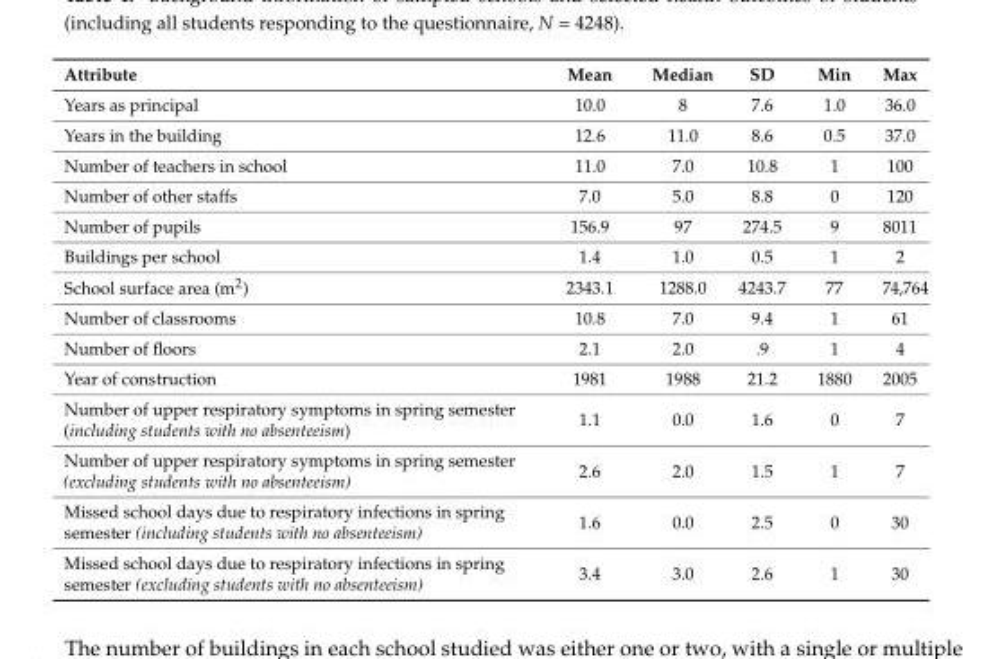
<table><thead><tr><td>Attribute</td><td>Mean</td><td>Median</td><td>SD</td><td>Min</td><td>Max</td></tr></thead><tbody><tr><td>Years as principal</td><td>10.0</td><td>8</td><td>7.6</td><td>1.0</td><td>36.0</td></tr><tr><td>Years in the building</td><td>12.6</td><td>11.0</td><td>8.6</td><td>0.5</td><td>37.0</td></tr><tr><td>Number of teachers in school</td><td>11.0</td><td>7.0</td><td>10.8</td><td>1</td><td>100</td></tr><tr><td>Number of other staffs</td><td>7.0</td><td>5.0</td><td>8.8</td><td>0</td><td>120</td></tr><tr><td>Number of pupils</td><td>156.9</td><td>97</td><td>274.5</td><td>9</td><td>8011</td></tr><tr><td>Buildings per school</td><td>1.4</td><td>1.0</td><td>0.5</td><td>1</td><td>2</td></tr><tr><td>School surface area (m<sup>2</sup>)</td><td>2343.1</td><td>1288.0</td><td>4243.7</td><td>77</td><td>74,764</td></tr><tr><td>Number of classrooms</td><td>10.8</td><td>7.0</td><td>9.4</td><td>1</td><td>61</td></tr><tr><td>Number of floors</td><td>2.1</td><td>2.0</td><td>.9</td><td>1</td><td>4</td></tr><tr><td>Year of construction</td><td>1981</td><td>1988</td><td>21.2</td><td>1880</td><td>2005</td></tr><tr><td>Number of upper respiratory symptoms in spring semester (including students with no absenteeism)</td><td>1.1</td><td>0.0</td><td>1.6</td><td>0</td><td>7</td></tr><tr><td>Number of upper respiratory symptoms in spring semester (excluding students with no absenteeism)</td><td>2.6</td><td>2.0</td><td>1.5</td><td>1</td><td>7</td></tr><tr><td>Missed school days due to respiratory infections in spring semester (including students with no absenteeism)</td><td>1.6</td><td>0.0</td><td>2.5</td><td>0</td><td>30</td></tr><tr><td>Missed school days due to respiratory infections in spring semester (excluding students with no absenteeism)</td><td>3.4</td><td>3.0</td><td>2.6</td><td>1</td><td>30</td></tr></tbody></table>